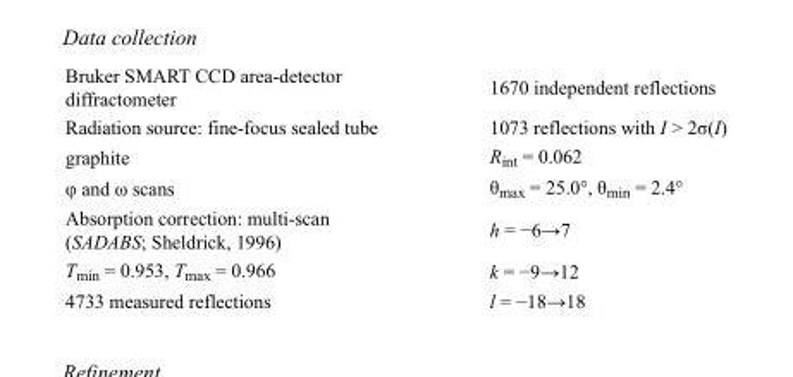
<table><tbody><tr><td>Bruker SMART CCD area-detector diffractometer</td><td>1670 independent reflections</td></tr><tr><td>Radiation source: fine-focus sealed tube</td><td>1073 reflections with I &gt; 2σ(I)</td></tr><tr><td>graphite</td><td>R<sub>int</sub> = 0.062</td></tr><tr><td>φ and ω scans</td><td>θ<sub>max</sub> = 25.0°, θ<sub>min</sub> = 2.4°</td></tr><tr><td>Absorption correction: multi-scan (SADABS; Sheldrick, 1996)</td><td>h = −6→7</td></tr><tr><td>T<sub>min</sub> = 0.953, T<sub>max</sub> = 0.966</td><td>k = −9→12</td></tr><tr><td>4733 measured reflections</td><td>l = −18→18</td></tr></tbody></table>